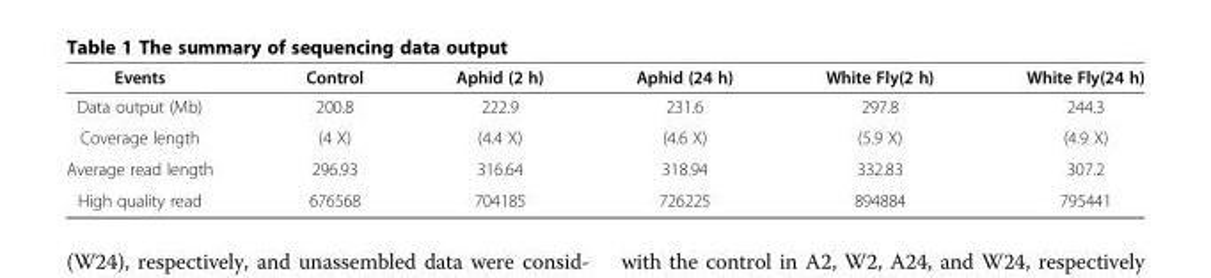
<table><thead><tr><td>Events</td><td>Control</td><td>Aphid (2 h)</td><td>Aphid (24 h)</td><td>White Fly(2 h)</td><td>White Fly(24 h)</td></tr></thead><tbody><tr><td>Data output (Mb)</td><td>200.8</td><td>222.9</td><td>231.6</td><td>297.8</td><td>244.3</td></tr><tr><td>Coverage length</td><td>(4 X)</td><td>(4.4 X)</td><td>(4.6 X)</td><td>(5.9 X)</td><td>(4.9 X)</td></tr><tr><td>Average read length</td><td>296.93</td><td>316.64</td><td>318.94</td><td>332.83</td><td>307.2</td></tr><tr><td>High quality read</td><td>676568</td><td>704185</td><td>726225</td><td>894884</td><td>795441</td></tr></tbody></table>